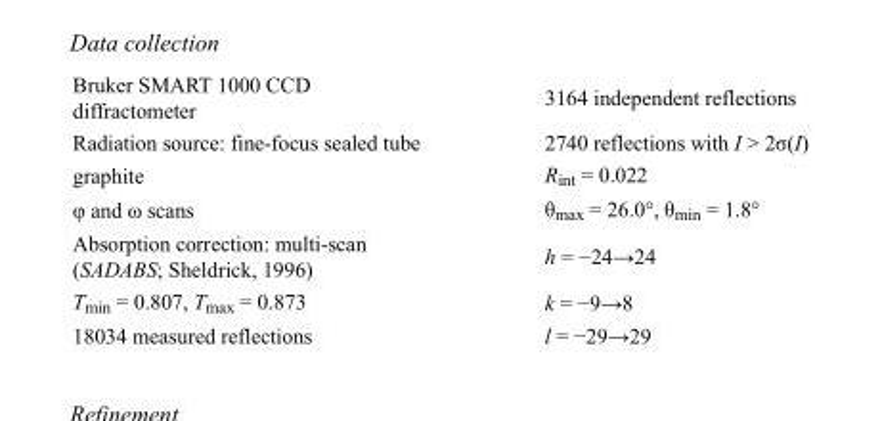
<table><tbody><tr><td>Bruker SMART 1000 CCD diffractometer</td><td>3164 independent reflections</td></tr><tr><td>Radiation source: fine-focus sealed tube</td><td>2740 reflections with I &gt; 2σ(I)</td></tr><tr><td>graphite</td><td>R<sub>int</sub> = 0.022</td></tr><tr><td>φ and ω scans</td><td>θ<sub>max</sub> = 26.0°, θ<sub>min</sub> = 1.8°</td></tr><tr><td>Absorption correction: multi-scan (SADABS; Sheldrick, 1996)</td><td>h = −24→24</td></tr><tr><td>T<sub>min</sub> = 0.807, T<sub>max</sub> = 0.873</td><td>k = −9→8</td></tr><tr><td>18034 measured reflections</td><td>l = −29→29</td></tr></tbody></table>